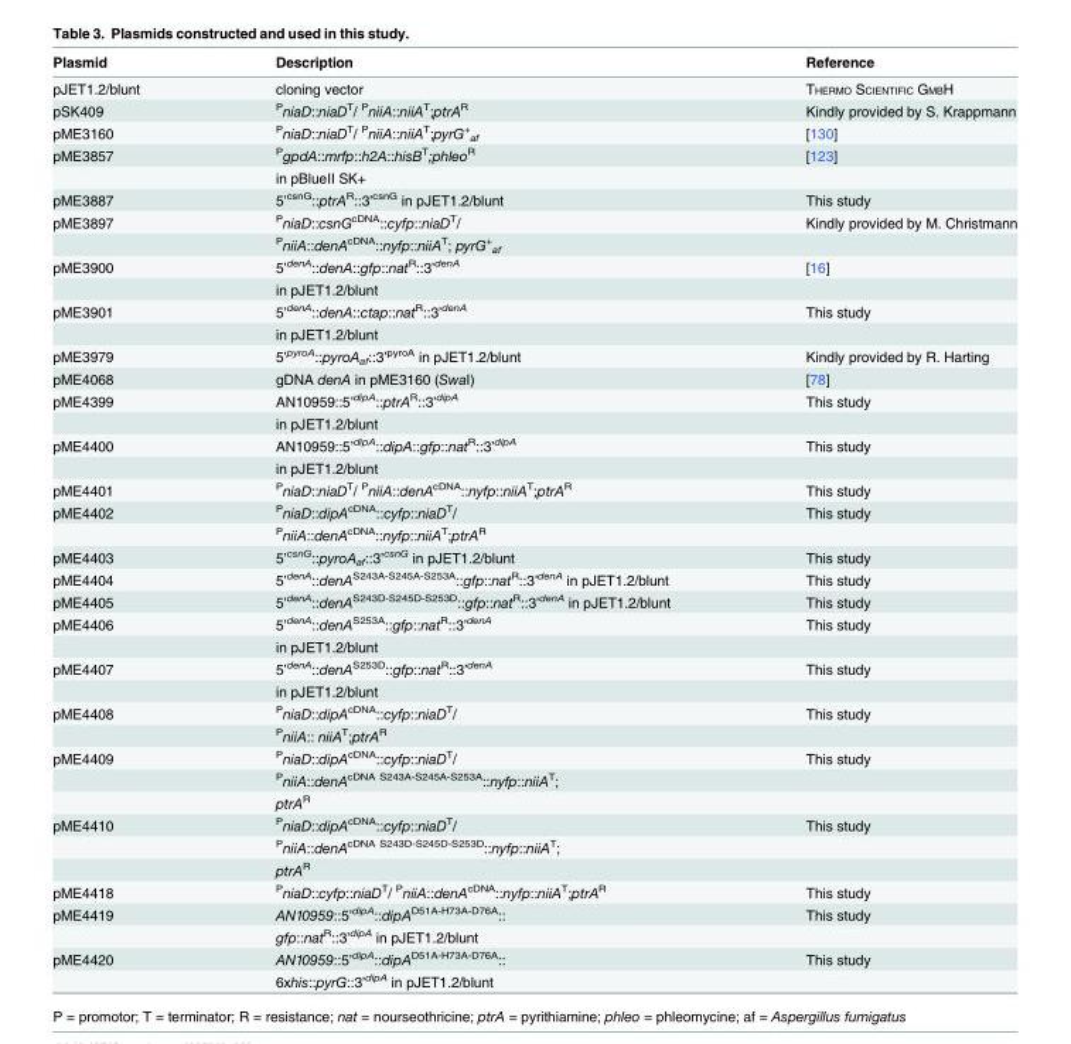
<table><thead><tr><td>Plasmid</td><td>Description</td><td>Reference</td></tr></thead><tbody><tr><td>pJET1.2/blunt</td><td>cloning vector</td><td>THERMO SCIENTIFIC GMBH</td></tr><tr><td>pSK409</td><td><sup>P</sup>niaD::niaD<sup>T</sup>/ <sup>P</sup>niiA::niiA<sup>T</sup>;ptrA<sup>R</sup></td><td>Kindly provided by S. Krappmann</td></tr><tr><td>pME3160</td><td><sup>P</sup>niaD::niaD<sup>T</sup>/ <sup>P</sup>niiA::niiA<sup>T</sup>;pyrG<sup>+</sup> <sub>af</sub></td><td>[130]</td></tr><tr><td rowspan="2">pME3857</td><td><sup>P</sup>gpdA::mrfp::h2A::hisB<sup>T</sup>;phleo<sup>R</sup></td><td>[123]</td></tr><tr><td>in pBlueII SK+</td><td></td></tr><tr><td>pME3887</td><td>5’<sup>csnG</sup>::ptrA<sup>R</sup>::3’<sup>csnG</sup> in pJET1.2/blunt</td><td>This study</td></tr><tr><td rowspan="2">pME3897</td><td><sup>P</sup>niaD::csnG<sup>cDNA</sup>::cyfp::niaD<sup>T</sup>/</td><td>Kindly provided by M. Christmann</td></tr><tr><td><sup>P</sup>niiA::denA<sup>cDNA</sup>::nyfp::niiA<sup>T</sup>; pyrG<sup>+</sup> <sub>af</sub></td><td></td></tr><tr><td rowspan="2">pME3900</td><td>5’<sup>denA</sup>::denA::gfp::nat<sup>R</sup>::3’<sup>denA</sup></td><td>[16]</td></tr><tr><td>in pJET1.2/blunt</td><td></td></tr><tr><td rowspan="2">pME3901</td><td>5’<sup>denA</sup>::denA::ctap::nat<sup>R</sup>::3’<sup>denA</sup></td><td>This study</td></tr><tr><td>in pJET1.2/blunt</td><td></td></tr><tr><td>pME3979</td><td>5’<sup>pyroA</sup>::pyroA<sub>af</sub>::3’<sup>pyroA</sup> in pJET1.2/blunt</td><td>Kindly provided by R. Harting</td></tr><tr><td>pME4068</td><td>gDNA denA in pME3160 (SwaI)</td><td>[78]</td></tr><tr><td rowspan="2">pME4399</td><td>AN10959::5’<sup>dipA</sup>::ptrA<sup>R</sup>::3’<sup>dipA</sup></td><td>This study</td></tr><tr><td>in pJET1.2/blunt</td><td></td></tr><tr><td rowspan="2">pME4400</td><td>AN10959::5’<sup>dipA</sup>::dipA::gfp::nat<sup>R</sup>::3’<sup>dipA</sup></td><td>This study</td></tr><tr><td>in pJET1.2/blunt</td><td></td></tr><tr><td>pME4401</td><td><sup>P</sup>niaD::niaD<sup>T</sup>/ <sup>P</sup>niiA::denA<sup>cDNA</sup>::nyfp::niiA<sup>T</sup>;ptrA<sup>R</sup></td><td>This study</td></tr><tr><td rowspan="2">pME4402</td><td><sup>P</sup>niaD::dipA<sup>cDNA</sup>::cyfp::niaD<sup>T</sup>/</td><td>This study</td></tr><tr><td><sup>P</sup>niiA::denA<sup>cDNA</sup>::nyfp::niiA<sup>T</sup>;ptrA<sup>R</sup></td><td></td></tr><tr><td>pME4403</td><td>5’<sup>csnG</sup>::pyroA<sub>af</sub>::3’<sup>csnG</sup> in pJET1.2/blunt</td><td>This study</td></tr><tr><td>pME4404</td><td>5’<sup>denA</sup>::denA<sup>S243A-S245A-S253A</sup>::gfp::nat<sup>R</sup>::3’<sup>denA</sup> in pJET1.2/blunt</td><td>This study</td></tr><tr><td>pME4405</td><td>5’<sup>denA</sup>::denA<sup>S243D-S245D-S253D</sup>::gfp::nat<sup>R</sup>::3’<sup>denA</sup> in pJET1.2/blunt</td><td>This study</td></tr><tr><td rowspan="2">pME4406</td><td>5’<sup>denA</sup>::denA<sup>S253A</sup>::gfp::nat<sup>R</sup>::3’<sup>denA</sup></td><td>This study</td></tr><tr><td>in pJET1.2/blunt</td><td></td></tr><tr><td rowspan="2">pME4407</td><td>5’<sup>denA</sup>::denA<sup>S253D</sup>::gfp::nat<sup>R</sup>::3’<sup>denA</sup></td><td>This study</td></tr><tr><td>in pJET1.2/blunt</td><td></td></tr><tr><td rowspan="2">pME4408</td><td><sup>P</sup>niaD::dipA<sup>cDNA</sup>::cyfp::niaD<sup>T</sup>/</td><td>This study</td></tr><tr><td><sup>P</sup>niiA:: niiA<sup>T</sup>;ptrA<sup>R</sup></td><td></td></tr><tr><td rowspan="3">pME4409</td><td><sup>P</sup>niaD::dipA<sup>cDNA</sup>::cyfp::niaD<sup>T</sup>/</td><td>This study</td></tr><tr><td><sup>P</sup>niiA::denA<sup>cDNA S243A-S245A-S253A</sup>::nyfp::niiA<sup>T</sup>;</td><td></td></tr><tr><td>ptrA<sup>R</sup></td><td></td></tr><tr><td rowspan="3">pME4410</td><td><sup>P</sup>niaD::dipA<sup>cDNA</sup>::cyfp::niaD<sup>T</sup>/</td><td>This study</td></tr><tr><td><sup>P</sup>niiA::denA<sup>cDNA S243D-S245D-S253D</sup>::nyfp::niiA<sup>T</sup>;</td><td></td></tr><tr><td>ptrA<sup>R</sup></td><td></td></tr><tr><td>pME4418</td><td><sup>P</sup>niaD::cyfp::niaD<sup>T</sup>/ <sup>P</sup>niiA::denA<sup>cDNA</sup>::nyfp::niiA<sup>T</sup>;ptrA<sup>R</sup></td><td>This study</td></tr><tr><td rowspan="2">pME4419</td><td>AN10959::5’<sup>dipA</sup>::dipA<sup>D51A-H73A-D76A</sup>::</td><td>This study</td></tr><tr><td>gfp::nat<sup>R</sup>::3’<sup>dipA</sup> in pJET1.2/blunt</td><td></td></tr><tr><td rowspan="2">pME4420</td><td>AN10959::5’<sup>dipA</sup>::dipA<sup>D51A-H73A-D76A</sup>::</td><td>This study</td></tr><tr><td>6xhis::pyrG::3’<sup>dipA</sup> in pJET1.2/blunt</td><td></td></tr></tbody></table>